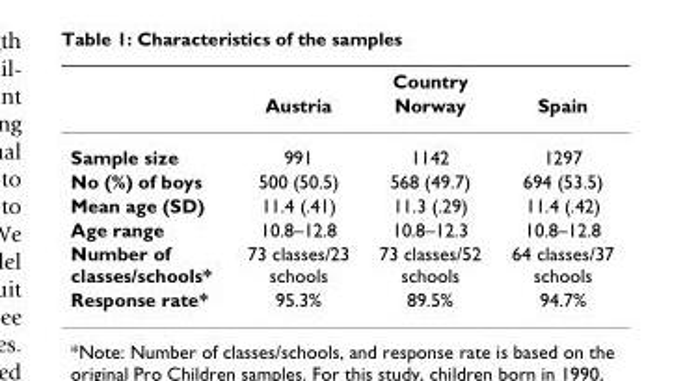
<table><thead><tr><td rowspan="2"></td><td rowspan="2">Austria</td><td rowspan="2">Country Norway</td><td rowspan="2">Spain</td></tr><tr></tr></thead><tbody><tr><td>Sample size</td><td>991</td><td>1142</td><td>1297</td></tr><tr><td>No (%) of boys</td><td>500 (50.5)</td><td>568 (49.7)</td><td>694 (53.5)</td></tr><tr><td>Mean age (SD)</td><td>11.4 (.41)</td><td>11.3 (.29)</td><td>11.4 (.42)</td></tr><tr><td>Age range</td><td>10.8–12.8</td><td>10.8–12.3</td><td>10.8–12.8</td></tr><tr><td>Number of classes/schools*</td><td>73 classes/23 schools</td><td>73 classes/52 schools</td><td>64 classes/37 schools</td></tr><tr><td>Response rate*</td><td>95.3%</td><td>89.5%</td><td>94.7%</td></tr></tbody></table>